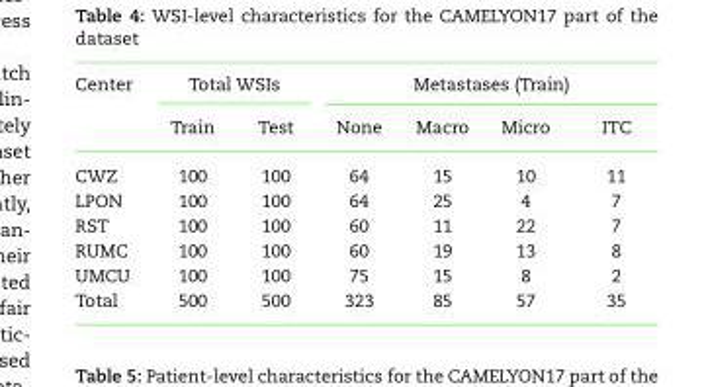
<table><thead><tr><td rowspan="2">Center</td><td colspan="2">Total WSIs</td><td colspan="4">Metastases (Train)</td></tr><tr><td>Train</td><td>Test</td><td>None</td><td>Macro</td><td>Micro</td><td>ITC</td></tr></thead><tbody><tr><td>CWZ</td><td>100</td><td>100</td><td>64</td><td>15</td><td>10</td><td>11</td></tr><tr><td>LPON</td><td>100</td><td>100</td><td>64</td><td>25</td><td>4</td><td>7</td></tr><tr><td>RST</td><td>100</td><td>100</td><td>60</td><td>11</td><td>22</td><td>7</td></tr><tr><td>RUMC</td><td>100</td><td>100</td><td>60</td><td>19</td><td>13</td><td>8</td></tr><tr><td>UMCU</td><td>100</td><td>100</td><td>75</td><td>15</td><td>8</td><td>2</td></tr><tr><td>Total</td><td>500</td><td>500</td><td>323</td><td>85</td><td>57</td><td>35</td></tr></tbody></table>